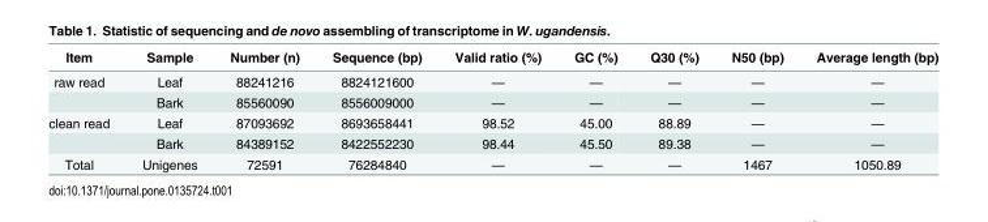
<table><thead><tr><td>Item</td><td>Sample</td><td>Number (n)</td><td>Sequence (bp)</td><td>Valid ratio (%)</td><td>GC (%)</td><td>Q30 (%)</td><td>N50 (bp)</td><td>Average length (bp)</td></tr></thead><tbody><tr><td rowspan="2">raw read</td><td>Leaf</td><td>88241216</td><td>8824121600</td><td>—</td><td>—</td><td>—</td><td>—</td><td>—</td></tr><tr><td>Bark</td><td>85560090</td><td>8556009000</td><td>—</td><td>—</td><td>—</td><td>—</td><td>—</td></tr><tr><td rowspan="2">clean read</td><td>Leaf</td><td>87093692</td><td>8693658441</td><td>98.52</td><td>45.00</td><td>88.89</td><td>—</td><td>—</td></tr><tr><td>Bark</td><td>84389152</td><td>8422552230</td><td>98.44</td><td>45.50</td><td>89.38</td><td>—</td><td>—</td></tr><tr><td>Total</td><td>Unigenes</td><td>72591</td><td>76284840</td><td>—</td><td>—</td><td>—</td><td>1467</td><td>1050.89</td></tr></tbody></table>